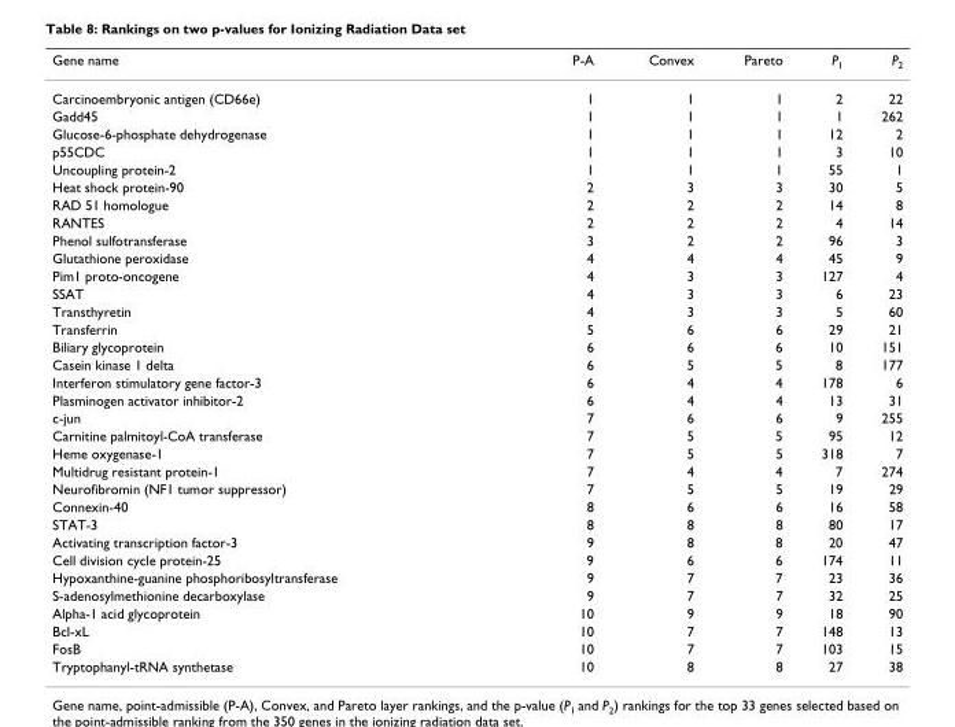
<table><thead><tr><td>Gene name</td><td>P-A</td><td>Convex</td><td>Pareto</td><td>P<sub>1</sub></td><td>P<sub>2</sub></td></tr></thead><tbody><tr><td>Carcinoembryonic antigen (CD66e)</td><td>1</td><td>1</td><td>1</td><td>2</td><td>22</td></tr><tr><td>Gadd45</td><td>1</td><td>1</td><td>1</td><td>1</td><td>262</td></tr><tr><td>Glucose-6-phosphate dehydrogenase</td><td>1</td><td>1</td><td>1</td><td>12</td><td>2</td></tr><tr><td>p55CDC</td><td>1</td><td>1</td><td>1</td><td>3</td><td>10</td></tr><tr><td>Uncoupling protein-2</td><td>1</td><td>1</td><td>1</td><td>55</td><td>1</td></tr><tr><td>Heat shock protein-90</td><td>2</td><td>3</td><td>3</td><td>30</td><td>5</td></tr><tr><td>RAD 51 homologue</td><td>2</td><td>2</td><td>2</td><td>14</td><td>8</td></tr><tr><td>RANTES</td><td>2</td><td>2</td><td>2</td><td>4</td><td>14</td></tr><tr><td>Phenol sulfotransferase</td><td>3</td><td>2</td><td>2</td><td>96</td><td>3</td></tr><tr><td>Glutathione peroxidase</td><td>4</td><td>4</td><td>4</td><td>45</td><td>9</td></tr><tr><td>Pim1 proto-oncogene</td><td>4</td><td>3</td><td>3</td><td>127</td><td>4</td></tr><tr><td>SSAT</td><td>4</td><td>3</td><td>3</td><td>6</td><td>23</td></tr><tr><td>Transthyretin</td><td>4</td><td>3</td><td>3</td><td>5</td><td>60</td></tr><tr><td>Transferrin</td><td>5</td><td>6</td><td>6</td><td>29</td><td>21</td></tr><tr><td>Biliary glycoprotein</td><td>6</td><td>6</td><td>6</td><td>10</td><td>151</td></tr><tr><td>Casein kinase 1 delta</td><td>6</td><td>5</td><td>5</td><td>8</td><td>177</td></tr><tr><td>Interferon stimulatory gene factor-3</td><td>6</td><td>4</td><td>4</td><td>178</td><td>6</td></tr><tr><td>Plasminogen activator inhibitor-2</td><td>6</td><td>4</td><td>4</td><td>13</td><td>31</td></tr><tr><td>c-jun</td><td>7</td><td>6</td><td>6</td><td>9</td><td>255</td></tr><tr><td>Carnitine palmitoyl-CoA transferase</td><td>7</td><td>5</td><td>5</td><td>95</td><td>12</td></tr><tr><td>Heme oxygenase-1</td><td>7</td><td>5</td><td>5</td><td>318</td><td>7</td></tr><tr><td>Multidrug resistant protein-1</td><td>7</td><td>4</td><td>4</td><td>7</td><td>274</td></tr><tr><td>Neurofibromin (NF1 tumor suppressor)</td><td>7</td><td>5</td><td>5</td><td>19</td><td>29</td></tr><tr><td>Connexin-40</td><td>8</td><td>6</td><td>6</td><td>16</td><td>58</td></tr><tr><td>STAT-3</td><td>8</td><td>8</td><td>8</td><td>80</td><td>17</td></tr><tr><td>Activating transcription factor-3</td><td>9</td><td>8</td><td>8</td><td>20</td><td>47</td></tr><tr><td>Cell division cycle protein-25</td><td>9</td><td>6</td><td>6</td><td>174</td><td>11</td></tr><tr><td>Hypoxanthine-guanine phosphoribosyltransferase</td><td>9</td><td>7</td><td>7</td><td>23</td><td>36</td></tr><tr><td>S-adenosylmethionine decarboxylase</td><td>9</td><td>7</td><td>7</td><td>32</td><td>25</td></tr><tr><td>Alpha-1 acid glycoprotein</td><td>10</td><td>9</td><td>9</td><td>18</td><td>90</td></tr><tr><td>Bcl-xL</td><td>10</td><td>7</td><td>7</td><td>148</td><td>13</td></tr><tr><td>FosB</td><td>10</td><td>7</td><td>7</td><td>103</td><td>15</td></tr><tr><td>Tryptophanyl-tRNA synthetase</td><td>10</td><td>8</td><td>8</td><td>27</td><td>38</td></tr></tbody></table>